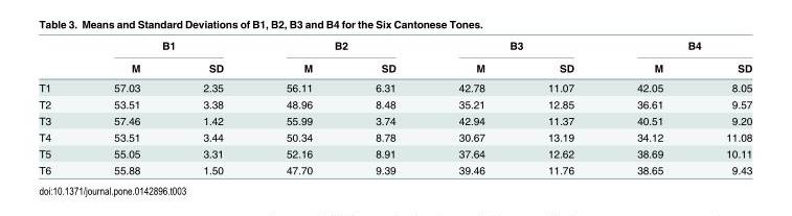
<table><thead><tr><td rowspan="2"></td><td colspan="2">B1</td><td colspan="2">B2</td><td colspan="2">B3</td><td colspan="2">B4</td></tr><tr><td>M</td><td>SD</td><td>M</td><td>SD</td><td>M</td><td>SD</td><td>M</td><td>SD</td></tr></thead><tbody><tr><td>T1</td><td>57.03</td><td>2.35</td><td>56.11</td><td>6.31</td><td>42.78</td><td>11.07</td><td>42.05</td><td>8.05</td></tr><tr><td>T2</td><td>53.51</td><td>3.38</td><td>48.96</td><td>8.48</td><td>35.21</td><td>12.85</td><td>36.61</td><td>9.57</td></tr><tr><td>T3</td><td>57.46</td><td>1.42</td><td>55.99</td><td>3.74</td><td>42.94</td><td>11.37</td><td>40.51</td><td>9.20</td></tr><tr><td>T4</td><td>53.51</td><td>3.44</td><td>50.34</td><td>8.78</td><td>30.67</td><td>13.19</td><td>34.12</td><td>11.08</td></tr><tr><td>T5</td><td>55.05</td><td>3.31</td><td>52.16</td><td>8.91</td><td>37.64</td><td>12.62</td><td>38.69</td><td>10.11</td></tr><tr><td>T6</td><td>55.88</td><td>1.50</td><td>47.70</td><td>9.39</td><td>39.46</td><td>11.76</td><td>38.65</td><td>9.43</td></tr></tbody></table>